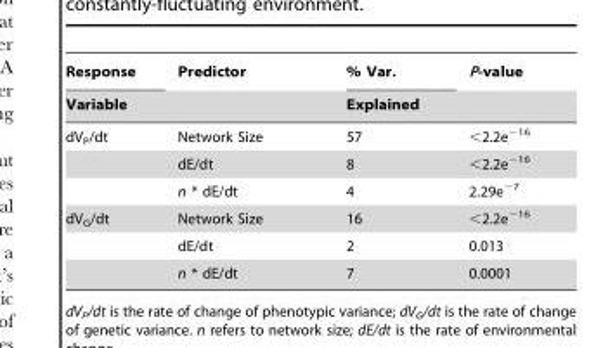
<table><thead><tr><td rowspan="2">Response Variable</td><td rowspan="2">Predictor</td><td rowspan="2">% Var. Explained</td><td rowspan="2">P-value</td></tr><tr></tr></thead><tbody><tr><td rowspan="3">dV<sub>P</sub>/dt</td><td>Network Size</td><td>57</td><td>&lt;2.2e<sup>−16</sup></td></tr><tr><td>dE/dt</td><td>8</td><td>&lt;2.2e<sup>−16</sup></td></tr><tr><td>n * dE/dt</td><td>4</td><td>2.29e<sup>−7</sup></td></tr><tr><td rowspan="3">dV<sub>G</sub>/dt</td><td>Network Size</td><td>16</td><td>&lt;2.2e<sup>−16</sup></td></tr><tr><td>dE/dt</td><td>2</td><td>0.013</td></tr><tr><td>n * dE/dt</td><td>7</td><td>0.0001</td></tr></tbody></table>